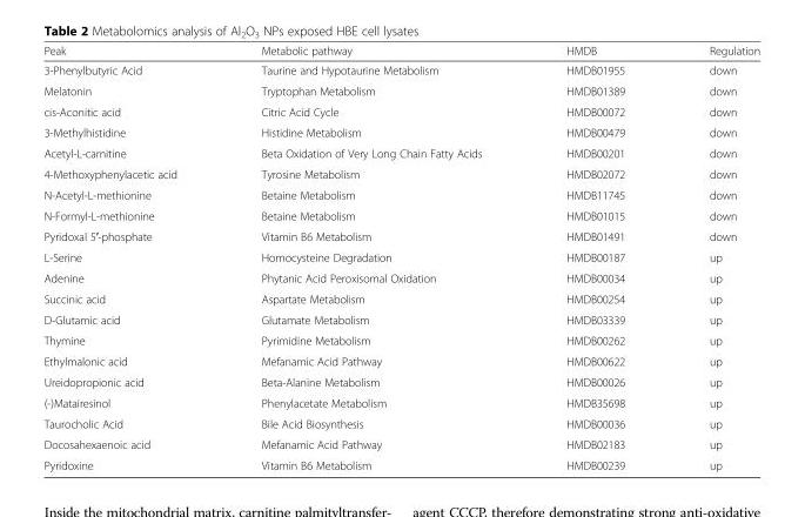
<table><thead><tr><td>Peak</td><td>Metabolic pathway</td><td>HMDB</td><td>Regulation</td></tr></thead><tbody><tr><td>3-Phenylbutyric Acid</td><td>Taurine and Hypotaurine Metabolism</td><td>HMDB01955</td><td>down</td></tr><tr><td>Melatonin</td><td>Tryptophan Metabolism</td><td>HMDB01389</td><td>down</td></tr><tr><td>cis-Aconitic acid</td><td>Citric Acid Cycle</td><td>HMDB00072</td><td>down</td></tr><tr><td>3-Methylhistidine</td><td>Histidine Metabolism</td><td>HMDB00479</td><td>down</td></tr><tr><td>Acetyl-L-carnitine</td><td>Beta Oxidation of Very Long Chain Fatty Acids</td><td>HMDB00201</td><td>down</td></tr><tr><td>4-Methoxyphenylacetic acid</td><td>Tyrosine Metabolism</td><td>HMDB02072</td><td>down</td></tr><tr><td>N-Acetyl-L-methionine</td><td>Betaine Metabolism</td><td>HMDB11745</td><td>down</td></tr><tr><td>N-Formyl-L-methionine</td><td>Betaine Metabolism</td><td>HMDB01015</td><td>down</td></tr><tr><td>Pyridoxal 5′-phosphate</td><td>Vitamin B6 Metabolism</td><td>HMDB01491</td><td>down</td></tr><tr><td>L-Serine</td><td>Homocysteine Degradation</td><td>HMDB00187</td><td>up</td></tr><tr><td>Adenine</td><td>Phytanic Acid Peroxisomal Oxidation</td><td>HMDB00034</td><td>up</td></tr><tr><td>Succinic acid</td><td>Aspartate Metabolism</td><td>HMDB00254</td><td>up</td></tr><tr><td>D-Glutamic acid</td><td>Glutamate Metabolism</td><td>HMDB03339</td><td>up</td></tr><tr><td>Thymine</td><td>Pyrimidine Metabolism</td><td>HMDB00262</td><td>up</td></tr><tr><td>Ethylmalonic acid</td><td>Mefanamic Acid Pathway</td><td>HMDB00622</td><td>up</td></tr><tr><td>Ureidopropionic acid</td><td>Beta-Alanine Metabolism</td><td>HMDB00026</td><td>up</td></tr><tr><td>(-)Matairesinol</td><td>Phenylacetate Metabolism</td><td>HMDB35698</td><td>up</td></tr><tr><td>Taurocholic Acid</td><td>Bile Acid Biosynthesis</td><td>HMDB00036</td><td>up</td></tr><tr><td>Docosahexaenoic acid</td><td>Mefanamic Acid Pathway</td><td>HMDB02183</td><td>up</td></tr><tr><td>Pyridoxine</td><td>Vitamin B6 Metabolism</td><td>HMDB00239</td><td>up</td></tr></tbody></table>